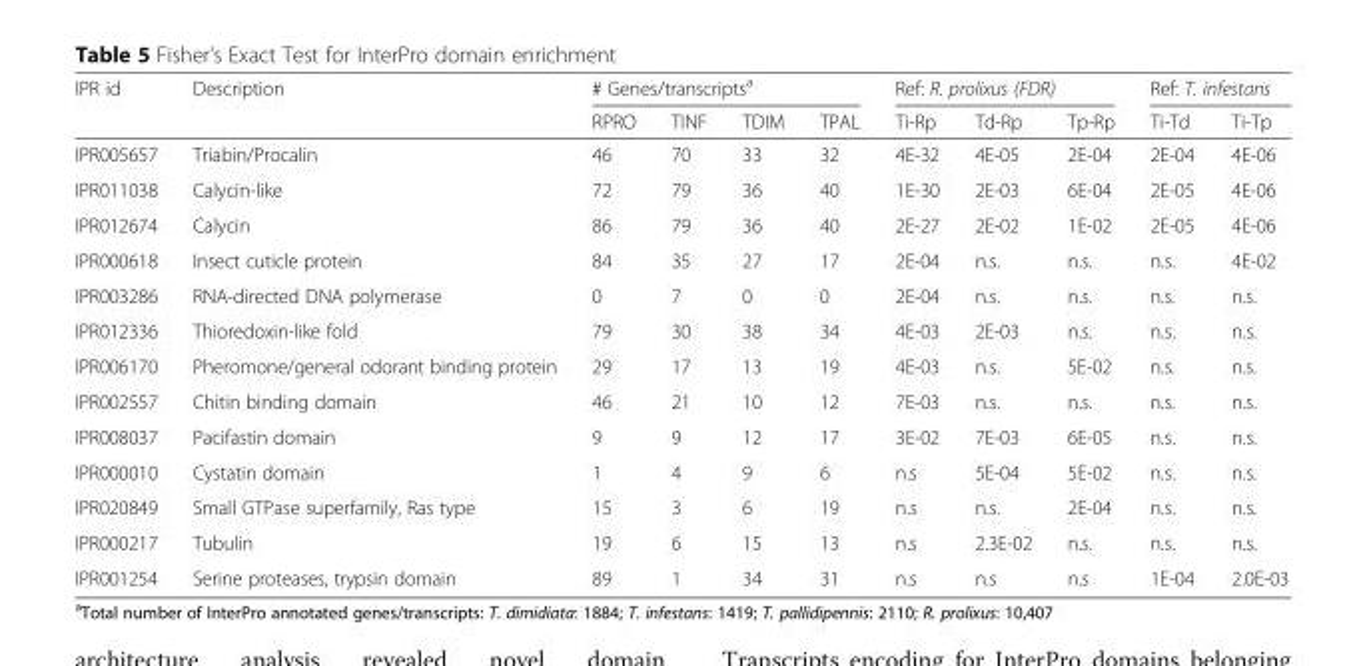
<table><thead><tr><td rowspan="2">IPR id</td><td rowspan="2">Description</td><td colspan="4"># Genes/transcripts<sup>a</sup></td><td colspan="3">Ref: R. prolixus (FDR)</td><td colspan="2">Ref: T. infestans</td></tr><tr><td>RPRO</td><td>TINF</td><td>TDIM</td><td>TPAL</td><td>Ti-Rp</td><td>Td-Rp</td><td>Tp-Rp</td><td>Ti-Td</td><td>Ti-Tp</td></tr></thead><tbody><tr><td>IPR005657</td><td>Triabin/Procalin</td><td>46</td><td>70</td><td>33</td><td>32</td><td>4E-32</td><td>4E-05</td><td>2E-04</td><td>2E-04</td><td>4E-06</td></tr><tr><td>IPR011038</td><td>Calycin-like</td><td>72</td><td>79</td><td>36</td><td>40</td><td>1E-30</td><td>2E-03</td><td>6E-04</td><td>2E-05</td><td>4E-06</td></tr><tr><td>IPR012674</td><td>Calycin</td><td>86</td><td>79</td><td>36</td><td>40</td><td>2E-27</td><td>2E-02</td><td>1E-02</td><td>2E-05</td><td>4E-06</td></tr><tr><td>IPR000618</td><td>Insect cuticle protein</td><td>84</td><td>35</td><td>27</td><td>17</td><td>2E-04</td><td>n.s.</td><td>n.s.</td><td>n.s.</td><td>4E-02</td></tr><tr><td>IPR003286</td><td>RNA-directed DNA polymerase</td><td>0</td><td>7</td><td>0</td><td>0</td><td>2E-04</td><td>n.s.</td><td>n.s.</td><td>n.s.</td><td>n.s.</td></tr><tr><td>IPR012336</td><td>Thioredoxin-like fold</td><td>79</td><td>30</td><td>38</td><td>34</td><td>4E-03</td><td>2E-03</td><td>n.s.</td><td>n.s.</td><td>n.s.</td></tr><tr><td>IPR006170</td><td>Pheromone/general odorant binding protein</td><td>29</td><td>17</td><td>13</td><td>19</td><td>4E-03</td><td>n.s.</td><td>5E-02</td><td>n.s.</td><td>n.s.</td></tr><tr><td>IPR002557</td><td>Chitin binding domain</td><td>46</td><td>21</td><td>10</td><td>12</td><td>7E-03</td><td>n.s.</td><td>n.s.</td><td>n.s.</td><td>n.s.</td></tr><tr><td>IPR008037</td><td>Pacifastin domain</td><td>9</td><td>9</td><td>12</td><td>17</td><td>3E-02</td><td>7E-03</td><td>6E-05</td><td>n.s.</td><td>n.s.</td></tr><tr><td>IPR000010</td><td>Cystatin domain</td><td>1</td><td>4</td><td>9</td><td>6</td><td>n.s</td><td>5E-04</td><td>5E-02</td><td>n.s.</td><td>n.s.</td></tr><tr><td>IPR020849</td><td>Small GTPase superfamily, Ras type</td><td>15</td><td>3</td><td>6</td><td>19</td><td>n.s</td><td>n.s.</td><td>2E-04</td><td>n.s.</td><td>n.s.</td></tr><tr><td>IPR000217</td><td>Tubulin</td><td>19</td><td>6</td><td>15</td><td>13</td><td>n.s</td><td>2.3E-02</td><td>n.s.</td><td>n.s.</td><td>n.s.</td></tr><tr><td>IPR001254</td><td>Serine proteases, trypsin domain</td><td>89</td><td>1</td><td>34</td><td>31</td><td>n.s</td><td>n.s</td><td>n.s</td><td>1E-04</td><td>2.0E-03</td></tr></tbody></table>